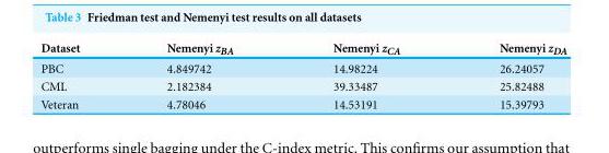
<table><thead><tr><td>Dataset</td><td>Nemenyi z<sub>BA</sub></td><td>Nemenyi z<sub>CA</sub></td><td>Nemenyi z<sub>DA</sub></td></tr></thead><tbody><tr><td>PBC</td><td>4.849742</td><td>14.98224</td><td>26.24057</td></tr><tr><td>CML</td><td>2.182384</td><td>39.33487</td><td>25.82488</td></tr><tr><td>Veteran</td><td>4.78046</td><td>14.53191</td><td>15.39793</td></tr></tbody></table>